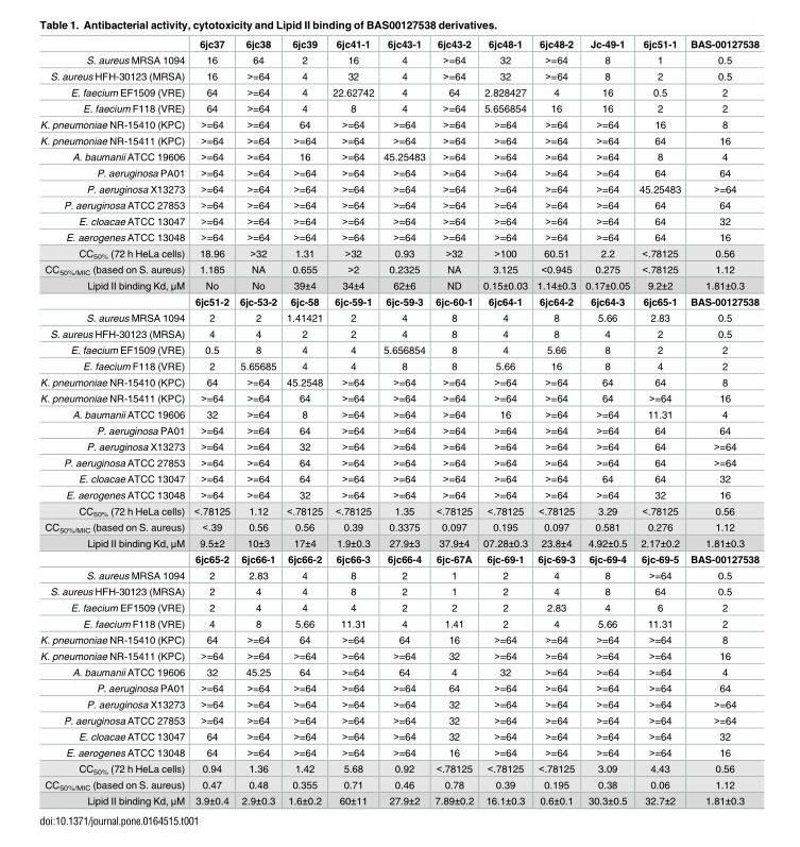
<table><thead><tr><td></td><td>6jc37</td><td>6jc38</td><td>6jc39</td><td>6jc41-1</td><td>6jc43-1</td><td>6jc43-2</td><td>6jc48-1</td><td>6jc48-2</td><td>Jc-49-1</td><td>6jc51-1</td><td>BAS-00127538</td></tr></thead><tbody><tr><td>S. aureus MRSA 1094</td><td>16</td><td>64</td><td>2</td><td>16</td><td>4</td><td>&gt;=64</td><td>32</td><td>&gt;=64</td><td>8</td><td>1</td><td>0.5</td></tr><tr><td>S. aureus HFH-30123 (MRSA)</td><td>16</td><td>&gt;=64</td><td>4</td><td>32</td><td>4</td><td>&gt;=64</td><td>32</td><td>&gt;=64</td><td>8</td><td>2</td><td>0.5</td></tr><tr><td>E. faecium EF1509 (VRE)</td><td>64</td><td>&gt;=64</td><td>4</td><td>22.62742</td><td>4</td><td>64</td><td>2.828427</td><td>4</td><td>16</td><td>0.5</td><td>2</td></tr><tr><td>E. faecium F118 (VRE)</td><td>64</td><td>&gt;=64</td><td>4</td><td>8</td><td>4</td><td>&gt;=64</td><td>5.656854</td><td>16</td><td>16</td><td>2</td><td>2</td></tr><tr><td>K. pneumoniae NR-15410 (KPC)</td><td>&gt;=64</td><td>&gt;=64</td><td>64</td><td>&gt;=64</td><td>&gt;=64</td><td>&gt;=64</td><td>&gt;=64</td><td>&gt;=64</td><td>&gt;=64</td><td>16</td><td>8</td></tr><tr><td>K. pneumoniae NR-15411 (KPC)</td><td>&gt;=64</td><td>&gt;=64</td><td>&gt;=64</td><td>&gt;=64</td><td>&gt;=64</td><td>&gt;=64</td><td>&gt;=64</td><td>&gt;=64</td><td>&gt;=64</td><td>64</td><td>16</td></tr><tr><td>A. baumanii ATCC 19606</td><td>&gt;=64</td><td>&gt;=64</td><td>16</td><td>&gt;=64</td><td>45.25483</td><td>&gt;=64</td><td>&gt;=64</td><td>&gt;=64</td><td>&gt;=64</td><td>8</td><td>4</td></tr><tr><td>P. aeruginosa PA01</td><td>&gt;=64</td><td>&gt;=64</td><td>&gt;=64</td><td>&gt;=64</td><td>&gt;=64</td><td>&gt;=64</td><td>&gt;=64</td><td>&gt;=64</td><td>&gt;=64</td><td>64</td><td>64</td></tr><tr><td>P. aeruginosa X13273</td><td>&gt;=64</td><td>&gt;=64</td><td>&gt;=64</td><td>&gt;=64</td><td>&gt;=64</td><td>&gt;=64</td><td>&gt;=64</td><td>&gt;=64</td><td>&gt;=64</td><td>45.25483</td><td>&gt;=64</td></tr><tr><td>P. aeruginosa ATCC 27853</td><td>&gt;=64</td><td>&gt;=64</td><td>&gt;=64</td><td>&gt;=64</td><td>&gt;=64</td><td>&gt;=64</td><td>&gt;=64</td><td>&gt;=64</td><td>&gt;=64</td><td>64</td><td>64</td></tr><tr><td>E. cloacae ATCC 13047</td><td>&gt;=64</td><td>&gt;=64</td><td>&gt;=64</td><td>&gt;=64</td><td>&gt;=64</td><td>&gt;=64</td><td>&gt;=64</td><td>&gt;=64</td><td>&gt;=64</td><td>64</td><td>32</td></tr><tr><td>E. aerogenes ATCC 13048</td><td>&gt;=64</td><td>&gt;=64</td><td>&gt;=64</td><td>&gt;=64</td><td>&gt;=64</td><td>&gt;=64</td><td>&gt;=64</td><td>&gt;=64</td><td>&gt;=64</td><td>64</td><td>16</td></tr><tr><td>CC<sub>50%</sub> (72 h HeLa cells)</td><td>18.96</td><td>&gt;32</td><td>1.31</td><td>&gt;32</td><td>0.93</td><td>&gt;32</td><td>&gt;100</td><td>60.51</td><td>2.2</td><td>&lt;.78125</td><td>0.56</td></tr><tr><td>CC<sub>50%/MIC</sub> (based on S. aureus)</td><td>1.185</td><td>NA</td><td>0.655</td><td>&gt;2</td><td>0.2325</td><td>NA</td><td>3.125</td><td>&lt;0.945</td><td>0.275</td><td>&lt;.78125</td><td>1.12</td></tr><tr><td rowspan="2">Lipid II binding Kd, μM</td><td>No</td><td>No</td><td>39±4</td><td>34±4</td><td>62±6</td><td>ND</td><td>0.15±0.03</td><td>1.14±0.3</td><td>0.17±0.05</td><td>9.2±2</td><td>1.81±0.3</td></tr><tr><td>6jc51-2</td><td>6jc-53-2</td><td>6jc-58</td><td>6jc-59-1</td><td>6jc-59-3</td><td>6jc-60-1</td><td>6jc64-1</td><td>6jc64-2</td><td>6jc64-3</td><td>6jc65-1</td><td>BAS-00127538</td></tr><tr><td>S. aureus MRSA 1094</td><td>2</td><td>2</td><td>1.41421</td><td>2</td><td>4</td><td>8</td><td>4</td><td>8</td><td>5.66</td><td>2.83</td><td>0.5</td></tr><tr><td>S. aureus HFH-30123 (MRSA)</td><td>4</td><td>4</td><td>2</td><td>2</td><td>4</td><td>8</td><td>4</td><td>8</td><td>4</td><td>2</td><td>0.5</td></tr><tr><td>E. faecium EF1509 (VRE)</td><td>0.5</td><td>8</td><td>4</td><td>4</td><td>5.656854</td><td>8</td><td>4</td><td>5.66</td><td>8</td><td>2</td><td>2</td></tr><tr><td>E. faecium F118 (VRE)</td><td>2</td><td>5.65685</td><td>4</td><td>4</td><td>8</td><td>8</td><td>5.66</td><td>16</td><td>8</td><td>4</td><td>2</td></tr><tr><td>K. pneumoniae NR-15410 (KPC)</td><td>64</td><td>&gt;=64</td><td>45.2548</td><td>&gt;=64</td><td>&gt;=64</td><td>&gt;=64</td><td>&gt;=64</td><td>&gt;=64</td><td>64</td><td>64</td><td>8</td></tr><tr><td>K. pneumoniae NR-15411 (KPC)</td><td>&gt;=64</td><td>&gt;=64</td><td>64</td><td>&gt;=64</td><td>&gt;=64</td><td>&gt;=64</td><td>&gt;=64</td><td>&gt;=64</td><td>64</td><td>&gt;=64</td><td>16</td></tr><tr><td>A. baumanii ATCC 19606</td><td>32</td><td>&gt;=64</td><td>8</td><td>&gt;=64</td><td>&gt;=64</td><td>&gt;=64</td><td>16</td><td>&gt;=64</td><td>&gt;=64</td><td>11.31</td><td>4</td></tr><tr><td>P. aeruginosa PA01</td><td>&gt;=64</td><td>&gt;=64</td><td>64</td><td>&gt;=64</td><td>&gt;=64</td><td>&gt;=64</td><td>&gt;=64</td><td>&gt;=64</td><td>&gt;=64</td><td>64</td><td>64</td></tr><tr><td>P. aeruginosa X13273</td><td>&gt;=64</td><td>&gt;=64</td><td>32</td><td>&gt;=64</td><td>&gt;=64</td><td>&gt;=64</td><td>&gt;=64</td><td>&gt;=64</td><td>&gt;=64</td><td>64</td><td>&gt;=64</td></tr><tr><td>P. aeruginosa ATCC 27853</td><td>&gt;=64</td><td>&gt;=64</td><td>64</td><td>&gt;=64</td><td>&gt;=64</td><td>&gt;=64</td><td>&gt;=64</td><td>&gt;=64</td><td>&gt;=64</td><td>64</td><td>&gt;=64</td></tr><tr><td>E. cloacae ATCC 13047</td><td>&gt;=64</td><td>&gt;=64</td><td>64</td><td>&gt;=64</td><td>&gt;=64</td><td>&gt;=64</td><td>&gt;=64</td><td>&gt;=64</td><td>64</td><td>64</td><td>32</td></tr><tr><td>E. aerogenes ATCC 13048</td><td>&gt;=64</td><td>&gt;=64</td><td>32</td><td>&gt;=64</td><td>&gt;=64</td><td>&gt;=64</td><td>&gt;=64</td><td>&gt;=64</td><td>&gt;=64</td><td>32</td><td>16</td></tr><tr><td>CC<sub>50%</sub> (72 h HeLa cells)</td><td>&lt;.78125</td><td>1.12</td><td>&lt;.78125</td><td>&lt;.78125</td><td>1.35</td><td>&lt;.78125</td><td>&lt;.78125</td><td>&lt;.78125</td><td>3.29</td><td>&lt;.78125</td><td>0.56</td></tr><tr><td>CC<sub>50%/MIC</sub> (based on S. aureus)</td><td>&lt;.39</td><td>0.56</td><td>0.56</td><td>0.39</td><td>0.3375</td><td>0.097</td><td>0.195</td><td>0.097</td><td>0.581</td><td>0.276</td><td>1.12</td></tr><tr><td rowspan="2">Lipid II binding Kd, μM</td><td>9.5±2</td><td>10±3</td><td>17±4</td><td>1.9±0.3</td><td>27.9±3</td><td>37.9±4</td><td>07.28±0.3</td><td>23.8±4</td><td>4.92±0.5</td><td>2.17±0.2</td><td>1.81±0.3</td></tr><tr><td>6jc65-2</td><td>6jc66-1</td><td>6jc66-2</td><td>6jc66-3</td><td>6jc66-4</td><td>6jc-67A</td><td>6jc-69-1</td><td>6jc-69-3</td><td>6jc-69-4</td><td>6jc-69-5</td><td>BAS-00127538</td></tr><tr><td>S. aureus MRSA 1094</td><td>2</td><td>2.83</td><td>4</td><td>8</td><td>2</td><td>1</td><td>2</td><td>4</td><td>8</td><td>&gt;=64</td><td>0.5</td></tr><tr><td>S. aureus HFH-30123 (MRSA)</td><td>2</td><td>4</td><td>4</td><td>8</td><td>2</td><td>1</td><td>2</td><td>4</td><td>8</td><td>64</td><td>0.5</td></tr><tr><td>E. faecium EF1509 (VRE)</td><td>2</td><td>4</td><td>4</td><td>4</td><td>2</td><td>2</td><td>2</td><td>2.83</td><td>4</td><td>6</td><td>2</td></tr><tr><td>E. faecium F118 (VRE)</td><td>4</td><td>8</td><td>5.66</td><td>11.31</td><td>4</td><td>1.41</td><td>2</td><td>4</td><td>5.66</td><td>11.31</td><td>2</td></tr><tr><td>K. pneumoniae NR-15410 (KPC)</td><td>64</td><td>&gt;=64</td><td>64</td><td>&gt;=64</td><td>64</td><td>16</td><td>&gt;=64</td><td>&gt;=64</td><td>&gt;=64</td><td>&gt;=64</td><td>8</td></tr><tr><td>K. pneumoniae NR-15411 (KPC)</td><td>&gt;=64</td><td>&gt;=64</td><td>&gt;=64</td><td>&gt;=64</td><td>&gt;=64</td><td>32</td><td>&gt;=64</td><td>&gt;=64</td><td>&gt;=64</td><td>&gt;=64</td><td>16</td></tr><tr><td>A. baumanii ATCC 19606</td><td>32</td><td>45.25</td><td>64</td><td>&gt;=64</td><td>64</td><td>4</td><td>32</td><td>&gt;=64</td><td>&gt;=64</td><td>&gt;=64</td><td>4</td></tr><tr><td>P. aeruginosa PA01</td><td>&gt;=64</td><td>&gt;=64</td><td>&gt;=64</td><td>&gt;=64</td><td>&gt;=64</td><td>64</td><td>&gt;=64</td><td>&gt;=64</td><td>&gt;=64</td><td>&gt;=64</td><td>64</td></tr><tr><td>P. aeruginosa X13273</td><td>&gt;=64</td><td>&gt;=64</td><td>&gt;=64</td><td>&gt;=64</td><td>&gt;=64</td><td>32</td><td>&gt;=64</td><td>&gt;=64</td><td>&gt;=64</td><td>&gt;=64</td><td>&gt;=64</td></tr><tr><td>P. aeruginosa ATCC 27853</td><td>&gt;=64</td><td>&gt;=64</td><td>&gt;=64</td><td>&gt;=64</td><td>&gt;=64</td><td>32</td><td>&gt;=64</td><td>&gt;=64</td><td>&gt;=64</td><td>&gt;=64</td><td>&gt;=64</td></tr><tr><td>E. cloacae ATCC 13047</td><td>64</td><td>&gt;=64</td><td>&gt;=64</td><td>&gt;=64</td><td>&gt;=64</td><td>32</td><td>&gt;=64</td><td>&gt;=64</td><td>&gt;=64</td><td>&gt;=64</td><td>32</td></tr><tr><td>E. aerogenes ATCC 13048</td><td>64</td><td>&gt;=64</td><td>&gt;=64</td><td>&gt;=64</td><td>&gt;=64</td><td>16</td><td>&gt;=64</td><td>&gt;=64</td><td>&gt;=64</td><td>&gt;=64</td><td>16</td></tr><tr><td>CC<sub>50%</sub> (72 h HeLa cells)</td><td>0.94</td><td>1.36</td><td>1.42</td><td>5.68</td><td>0.92</td><td>&lt;.78125</td><td>&lt;.78125</td><td>&lt;.78125</td><td>3.09</td><td>4.43</td><td>0.56</td></tr><tr><td>CC<sub>50%/MIC</sub> (based on S. aureus)</td><td>0.47</td><td>0.48</td><td>0.355</td><td>0.71</td><td>0.46</td><td>0.78</td><td>0.39</td><td>0.195</td><td>0.38</td><td>0.06</td><td>1.12</td></tr><tr><td>Lipid II binding Kd, μM</td><td>3.9±0.4</td><td>2.9±0.3</td><td>1.6±0.2</td><td>60±11</td><td>27.9±2</td><td>7.89±0.2</td><td>16.1±0.3</td><td>0.6±0.1</td><td>30.3±0.5</td><td>32.7±2</td><td>1.81±0.3</td></tr></tbody></table>